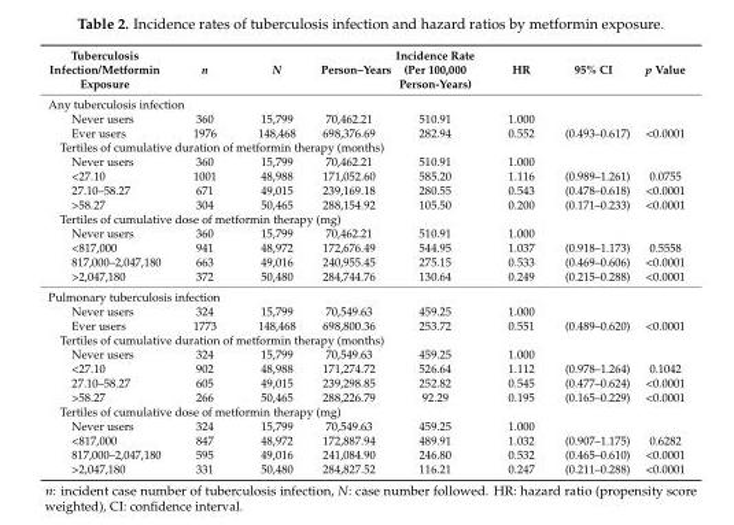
<table><thead><tr><td>Tuberculosis Infection/Metformin Exposure</td><td>n</td><td>N</td><td>Person–Years</td><td>Incidence Rate (Per 100,000 Person-Years)</td><td>HR</td><td>95% CI</td><td>p Value</td></tr></thead><tbody><tr><td colspan="8">Any tuberculosis infection</td></tr><tr><td>Never users</td><td>360</td><td>15,799</td><td>70,462.21</td><td>510.91</td><td>1.000</td><td></td><td></td></tr><tr><td>Ever users</td><td>1976</td><td>148,468</td><td>698,376.69</td><td>282.94</td><td>0.552</td><td>(0.493–0.617)</td><td>&lt;0.0001</td></tr><tr><td colspan="8">Tertiles of cumulative duration of metformin therapy (months)</td></tr><tr><td>Never users</td><td>360</td><td>15,799</td><td>70,462.21</td><td>510.91</td><td>1.000</td><td></td><td></td></tr><tr><td>&lt;27.10</td><td>1001</td><td>48,988</td><td>171,052.60</td><td>585.20</td><td>1.116</td><td>(0.989–1.261)</td><td>0.0755</td></tr><tr><td>27.10–58.27</td><td>671</td><td>49,015</td><td>239,169.18</td><td>280.55</td><td>0.543</td><td>(0.478–0.618)</td><td>&lt;0.0001</td></tr><tr><td>&gt;58.27</td><td>304</td><td>50,465</td><td>288,154.92</td><td>105.50</td><td>0.200</td><td>(0.171–0.233)</td><td>&lt;0.0001</td></tr><tr><td colspan="8">Tertiles of cumulative dose of metformin therapy (mg)</td></tr><tr><td>Never users</td><td>360</td><td>15,799</td><td>70,462.21</td><td>510.91</td><td>1.000</td><td></td><td></td></tr><tr><td>&lt;817,000</td><td>941</td><td>48,972</td><td>172,676.49</td><td>544.95</td><td>1.037</td><td>(0.918–1.173)</td><td>0.5558</td></tr><tr><td>817,000–2,047,180</td><td>663</td><td>49,016</td><td>240,955.45</td><td>275.15</td><td>0.533</td><td>(0.469–0.606)</td><td>&lt;0.0001</td></tr><tr><td>&gt;2,047,180</td><td>372</td><td>50,480</td><td>284,744.76</td><td>130.64</td><td>0.249</td><td>(0.215–0.288)</td><td>&lt;0.0001</td></tr><tr><td colspan="8">Pulmonary tuberculosis infection</td></tr><tr><td>Never users</td><td>324</td><td>15,799</td><td>70,549.63</td><td>459.25</td><td>1.000</td><td></td><td></td></tr><tr><td>Ever users</td><td>1773</td><td>148,468</td><td>698,800.36</td><td>253.72</td><td>0.551</td><td>(0.489–0.620)</td><td>&lt;0.0001</td></tr><tr><td colspan="8">Tertiles of cumulative duration of metformin therapy (months)</td></tr><tr><td>Never users</td><td>324</td><td>15,799</td><td>70,549.63</td><td>459.25</td><td>1.000</td><td></td><td></td></tr><tr><td>&lt;27.10</td><td>902</td><td>48,988</td><td>171,274.72</td><td>526.64</td><td>1.112</td><td>(0.978–1.264)</td><td>0.1042</td></tr><tr><td>27.10–58.27</td><td>605</td><td>49,015</td><td>239,298.85</td><td>252.82</td><td>0.545</td><td>(0.477–0.624)</td><td>&lt;0.0001</td></tr><tr><td>&gt;58.27</td><td>266</td><td>50,465</td><td>288,226.79</td><td>92.29</td><td>0.195</td><td>(0.165–0.229)</td><td>&lt;0.0001</td></tr><tr><td colspan="8">Tertiles of cumulative dose of metformin therapy (mg)</td></tr><tr><td>Never users</td><td>324</td><td>15,799</td><td>70,549.63</td><td>459.25</td><td>1.000</td><td></td><td></td></tr><tr><td>&lt;817,000</td><td>847</td><td>48,972</td><td>172,887.94</td><td>489.91</td><td>1.032</td><td>(0.907–1.175)</td><td>0.6282</td></tr><tr><td>817,000–2,047,180</td><td>595</td><td>49,016</td><td>241,084.90</td><td>246.80</td><td>0.532</td><td>(0.465–0.610)</td><td>&lt;0.0001</td></tr><tr><td>&gt;2,047,180</td><td>331</td><td>50,480</td><td>284,827.52</td><td>116.21</td><td>0.247</td><td>(0.211–0.288)</td><td>&lt;0.0001</td></tr></tbody></table>